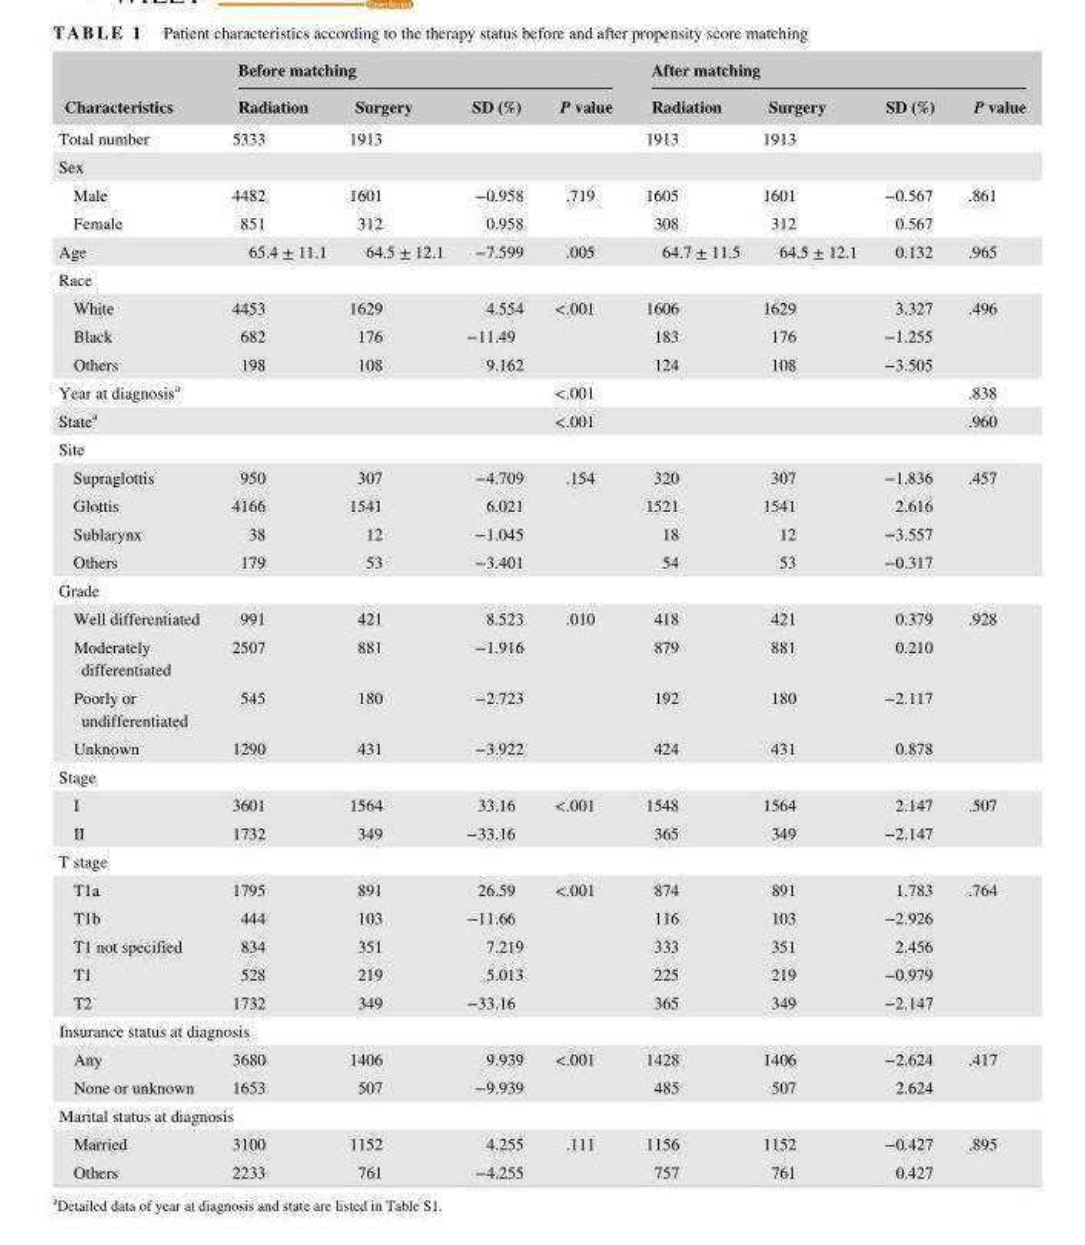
<table><thead><tr><td rowspan="2">Characteristics</td><td colspan="4">Before matching</td><td colspan="4">After matching</td></tr><tr><td>Radiation</td><td>Surgery</td><td>SD (%)</td><td>P value</td><td>Radiation</td><td>Surgery</td><td>SD (%)</td><td>P value</td></tr></thead><tbody><tr><td>Total number</td><td>5333</td><td>1913</td><td></td><td></td><td>1913</td><td>1913</td><td></td><td></td></tr><tr><td colspan="9">Sex</td></tr><tr><td>Male</td><td>4482</td><td>1601</td><td>−0.958</td><td>.719</td><td>1605</td><td>1601</td><td>−0.567</td><td rowspan="2">.861</td></tr><tr><td>Female</td><td>851</td><td>312</td><td>0.958</td><td></td><td>308</td><td>312</td><td>0.567</td></tr><tr><td>Age</td><td>65.4 ± 11.1</td><td>64.5 ± 12.1</td><td>−7.599</td><td>.005</td><td>64.7 ± 11.5</td><td>64.5 ± 12.1</td><td>0.132</td><td>.965</td></tr><tr><td colspan="9">Race</td></tr><tr><td>White</td><td>4453</td><td>1629</td><td>4.554</td><td rowspan="3">&lt;.001</td><td>1606</td><td>1629</td><td>3.327</td><td rowspan="3">.496</td></tr><tr><td>Black</td><td>682</td><td>176</td><td>−11.49</td><td>183</td><td>176</td><td>−1.255</td></tr><tr><td>Others</td><td>198</td><td>108</td><td>9.162</td><td>124</td><td>108</td><td>−3.505</td></tr><tr><td>Year at diagnosis<sup>a</sup></td><td></td><td></td><td></td><td>&lt;.001</td><td></td><td></td><td></td><td>.838</td></tr><tr><td>State<sup>a</sup></td><td></td><td></td><td></td><td>&lt;.001</td><td></td><td></td><td></td><td>.960</td></tr><tr><td colspan="9">Site</td></tr><tr><td>Supraglottis</td><td>950</td><td>307</td><td>−4.709</td><td rowspan="4">.154</td><td>320</td><td>307</td><td>−1.836</td><td rowspan="4">.457</td></tr><tr><td>Glottis</td><td>4166</td><td>1541</td><td>6.021</td><td>1521</td><td>1541</td><td>2.616</td></tr><tr><td>Sublarynx</td><td>38</td><td>12</td><td>−1.045</td><td>18</td><td>12</td><td>−3.557</td></tr><tr><td>Others</td><td>179</td><td>53</td><td>−3.401</td><td>54</td><td>53</td><td>−0.317</td></tr><tr><td colspan="9">Grade</td></tr><tr><td>Well differentiated</td><td>991</td><td>421</td><td>8.523</td><td rowspan="4">.010</td><td>418</td><td>421</td><td>0.379</td><td rowspan="4">.928</td></tr><tr><td>Moderately differentiated</td><td>2507</td><td>881</td><td>−1.916</td><td>879</td><td>881</td><td>0.210</td></tr><tr><td>Poorly or undifferentiated</td><td>545</td><td>180</td><td>−2.723</td><td>192</td><td>180</td><td>−2.117</td></tr><tr><td>Unknown</td><td>1290</td><td>431</td><td>−3.922</td><td>424</td><td>431</td><td>0.878</td></tr><tr><td colspan="9">Stage</td></tr><tr><td>I</td><td>3601</td><td>1564</td><td>33.16</td><td rowspan="2">&lt;.001</td><td>1548</td><td>1564</td><td>2.147</td><td rowspan="2">.507</td></tr><tr><td>II</td><td>1732</td><td>349</td><td>−33.16</td><td>365</td><td>349</td><td>−2.147</td></tr><tr><td colspan="9">T stage</td></tr><tr><td>T1a</td><td>1795</td><td>891</td><td>26.59</td><td rowspan="5">&lt;.001</td><td>874</td><td>891</td><td>1.783</td><td rowspan="5">.764</td></tr><tr><td>T1b</td><td>444</td><td>103</td><td>−11.66</td><td>116</td><td>103</td><td>−2.926</td></tr><tr><td>T1 not specified</td><td>834</td><td>351</td><td>7.219</td><td>333</td><td>351</td><td>2.456</td></tr><tr><td>T1</td><td>528</td><td>219</td><td>5.013</td><td>225</td><td>219</td><td>−0.979</td></tr><tr><td>T2</td><td>1732</td><td>349</td><td>−33.16</td><td>365</td><td>349</td><td>−2.147</td></tr><tr><td colspan="9">Insurance status at diagnosis</td></tr><tr><td>Any</td><td>3680</td><td>1406</td><td>9.939</td><td rowspan="2">&lt;.001</td><td>1428</td><td>1406</td><td>−2.624</td><td rowspan="2">.417</td></tr><tr><td>None or unknown</td><td>1653</td><td>507</td><td>−9.939</td><td>485</td><td>507</td><td>2.624</td></tr><tr><td colspan="9">Marital status at diagnosis</td></tr><tr><td>Married</td><td>3100</td><td>1152</td><td>4.255</td><td rowspan="2">.111</td><td>1156</td><td>1152</td><td>−0.427</td><td rowspan="2">.895</td></tr><tr><td>Others</td><td>2233</td><td>761</td><td>−4.255</td><td>757</td><td>761</td><td>0.427</td></tr></tbody></table>